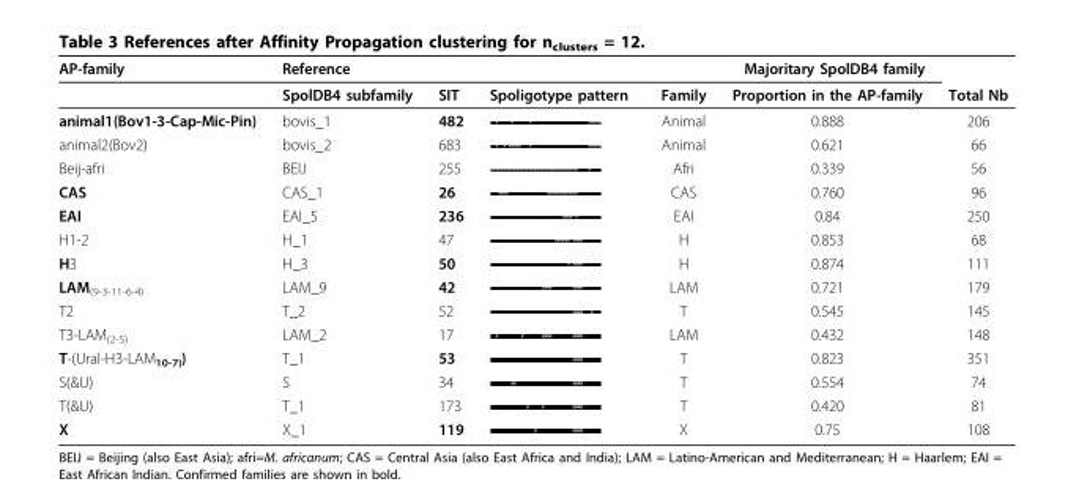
<table><thead><tr><td rowspan="2">AP-family</td><td rowspan="2">Reference SpolDB4 subfamily</td><td rowspan="2">SIT</td><td rowspan="2">Spoligotype pattern</td><td colspan="3">Majoritary SpolDB4 family</td></tr><tr><td>Family</td><td>Proportion in the AP-family</td><td>Total Nb</td></tr></thead><tbody><tr><td>animal1(Bov1-3-Cap-Mic-Pin)</td><td>bovis_1</td><td>482</td><td></td><td>Animal</td><td>0.888</td><td>206</td></tr><tr><td>animal2(Bov2)</td><td>bovis_2</td><td>683</td><td></td><td>Animal</td><td>0.621</td><td>66</td></tr><tr><td>Beij-afri</td><td>BEIJ</td><td>255</td><td></td><td>Afri</td><td>0.339</td><td>56</td></tr><tr><td>CAS</td><td>CAS_1</td><td>26</td><td></td><td>CAS</td><td>0.760</td><td>96</td></tr><tr><td>EAI</td><td>EAI_5</td><td>236</td><td></td><td>EAI</td><td>0.84</td><td>250</td></tr><tr><td>H1-2</td><td>H_1</td><td>47</td><td></td><td>H</td><td>0.853</td><td>68</td></tr><tr><td>H3</td><td>H_3</td><td>50</td><td></td><td>H</td><td>0.874</td><td>111</td></tr><tr><td>LAM<sub>(9-3-11-6-4)</sub></td><td>LAM_9</td><td>42</td><td></td><td>LAM</td><td>0.721</td><td>179</td></tr><tr><td>T2</td><td>T_2</td><td>52</td><td></td><td>T</td><td>0.545</td><td>145</td></tr><tr><td>T3-LAM<sub>(2-5)</sub></td><td>LAM_2</td><td>17</td><td></td><td>LAM</td><td>0.432</td><td>148</td></tr><tr><td>T-(Ural-H3-LAM<sub>10-7)</sub>)</td><td>T_1</td><td>53</td><td></td><td>T</td><td>0.823</td><td>351</td></tr><tr><td>S(&amp;U)</td><td>S</td><td>34</td><td></td><td>T</td><td>0.554</td><td>74</td></tr><tr><td>T(&amp;U)</td><td>T_1</td><td>173</td><td></td><td>T</td><td>0.420</td><td>81</td></tr><tr><td>X</td><td>X_1</td><td>119</td><td></td><td>X</td><td>0.75</td><td>108</td></tr></tbody></table>